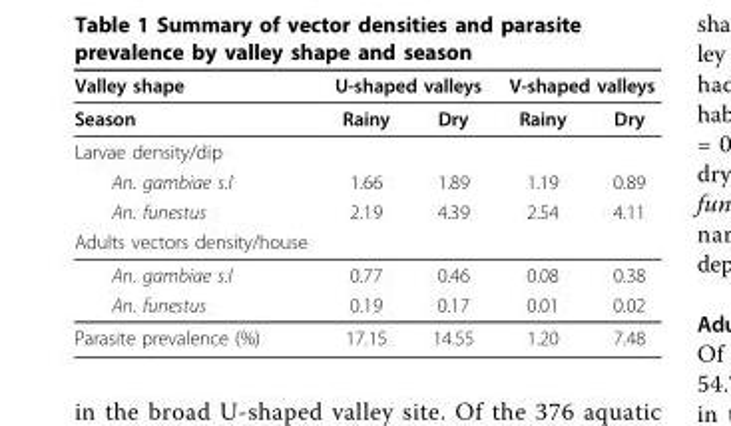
<table><thead><tr><td rowspan="2">Valley shape Season</td><td colspan="2">U-shaped valleys</td><td colspan="2">V-shaped valleys</td></tr><tr><td>Rainy</td><td>Dry</td><td>Rainy</td><td>Dry</td></tr></thead><tbody><tr><td colspan="5">Larvae density/dip</td></tr><tr><td>An. gambiae s.l</td><td>1.66</td><td>1.89</td><td>1.19</td><td>0.89</td></tr><tr><td>An. funestus</td><td>2.19</td><td>4.39</td><td>2.54</td><td>4.11</td></tr><tr><td colspan="5">Adults vectors density/house</td></tr><tr><td>An. gambiae s.l</td><td>0.77</td><td>0.46</td><td>0.08</td><td>0.38</td></tr><tr><td>An. funestus</td><td>0.19</td><td>0.17</td><td>0.01</td><td>0.02</td></tr><tr><td>Parasite prevalence (%)</td><td>17.15</td><td>14.55</td><td>1.20</td><td>7.48</td></tr></tbody></table>